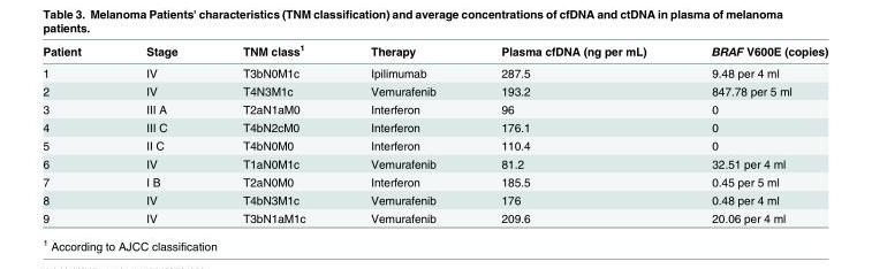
<table><thead><tr><td>Patient</td><td>Stage</td><td>TNM class<sup>1</sup></td><td>Therapy</td><td>Plasma cfDNA (ng per mL)</td><td>BRAF V600E (copies)</td></tr></thead><tbody><tr><td>1</td><td>IV</td><td>T3bN0M1c</td><td>Ipilimumab</td><td>287.5</td><td>9.48 per 4 ml</td></tr><tr><td>2</td><td>IV</td><td>T4N3M1c</td><td>Vemurafenib</td><td>193.2</td><td>847.78 per 5 ml</td></tr><tr><td>3</td><td>III A</td><td>T2aN1aM0</td><td>Interferon</td><td>96</td><td>0</td></tr><tr><td>4</td><td>III C</td><td>T4bN2cM0</td><td>Interferon</td><td>176.1</td><td>0</td></tr><tr><td>5</td><td>II C</td><td>T4bN0M0</td><td>Interferon</td><td>110.4</td><td>0</td></tr><tr><td>6</td><td>IV</td><td>T1aN0M1c</td><td>Vemurafenib</td><td>81.2</td><td>32.51 per 4 ml</td></tr><tr><td>7</td><td>I B</td><td>T2aN0M0</td><td>Interferon</td><td>185.5</td><td>0.45 per 5 ml</td></tr><tr><td>8</td><td>IV</td><td>T4bN3M1c</td><td>Vemurafenib</td><td>176</td><td>0.48 per 4 ml</td></tr><tr><td>9</td><td>IV</td><td>T3bN1aM1c</td><td>Vemurafenib</td><td>209.6</td><td>20.06 per 4 ml</td></tr></tbody></table>